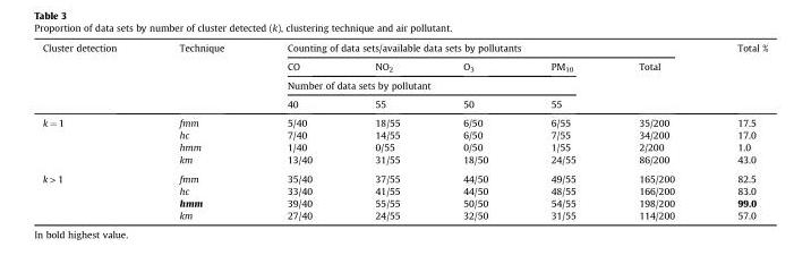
<table><thead><tr><td rowspan="4">Cluster detection</td><td rowspan="4">Technique</td><td colspan="5">Counting of data sets/available data sets by pollutants</td><td rowspan="4">Total %</td></tr><tr><td>CO</td><td>NO<sub>2</sub></td><td>O<sub>3</sub></td><td>PM<sub>10</sub></td><td rowspan="3">Total</td></tr><tr><td colspan="4">Number of data sets by pollutant</td></tr><tr><td>40</td><td>55</td><td>50</td><td>55</td></tr></thead><tbody><tr><td rowspan="4">k = 1</td><td>fmm</td><td>5/40</td><td>18/55</td><td>6/50</td><td>6/55</td><td>35/200</td><td>17.5</td></tr><tr><td>hc</td><td>7/40</td><td>14/55</td><td>6/50</td><td>7/55</td><td>34/200</td><td>17.0</td></tr><tr><td>hmm</td><td>1/40</td><td>0/55</td><td>0/50</td><td>1/55</td><td>2/200</td><td>1.0</td></tr><tr><td>km</td><td>13/40</td><td>31/55</td><td>18/50</td><td>24/55</td><td>86/200</td><td>43.0</td></tr><tr><td rowspan="4">k &gt; 1</td><td>fmm</td><td>35/40</td><td>37/55</td><td>44/50</td><td>49/55</td><td>165/200</td><td>82.5</td></tr><tr><td>hc</td><td>33/40</td><td>41/55</td><td>44/50</td><td>48/55</td><td>166/200</td><td>83.0</td></tr><tr><td>hmm</td><td>39/40</td><td>55/55</td><td>50/50</td><td>54/55</td><td>198/200</td><td>99.0</td></tr><tr><td>km</td><td>27/40</td><td>24/55</td><td>32/50</td><td>31/55</td><td>114/200</td><td>57.0</td></tr></tbody></table>